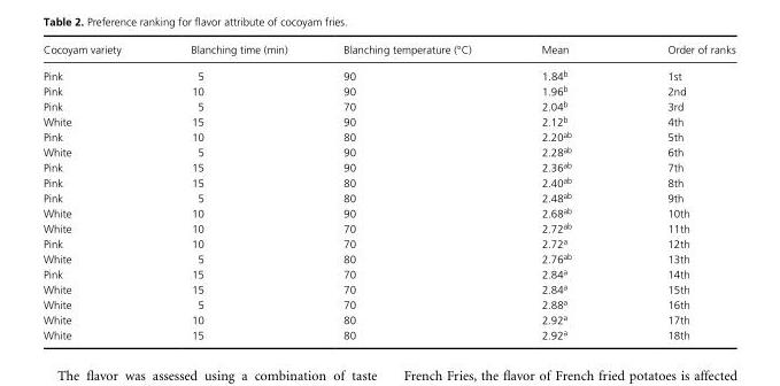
<table><thead><tr><td>Cocoyam variety</td><td>Blanching time (min)</td><td>Blanching temperature (°C)</td><td>Mean</td><td>Order of ranks</td></tr></thead><tbody><tr><td>Pink</td><td>5</td><td>90</td><td>1.84<sup>b</sup></td><td>1st</td></tr><tr><td>Pink</td><td>10</td><td>90</td><td>1.96<sup>b</sup></td><td>2nd</td></tr><tr><td>Pink</td><td>5</td><td>70</td><td>2.04<sup>b</sup></td><td>3rd</td></tr><tr><td>White</td><td>15</td><td>90</td><td>2.12<sup>b</sup></td><td>4th</td></tr><tr><td>Pink</td><td>10</td><td>80</td><td>2.20<sup>ab</sup></td><td>5th</td></tr><tr><td>White</td><td>5</td><td>90</td><td>2.28<sup>ab</sup></td><td>6th</td></tr><tr><td>Pink</td><td>15</td><td>90</td><td>2.36<sup>ab</sup></td><td>7th</td></tr><tr><td>Pink</td><td>15</td><td>80</td><td>2.40<sup>ab</sup></td><td>8th</td></tr><tr><td>Pink</td><td>5</td><td>80</td><td>2.48<sup>ab</sup></td><td>9th</td></tr><tr><td>White</td><td>10</td><td>90</td><td>2.68<sup>ab</sup></td><td>10th</td></tr><tr><td>White</td><td>10</td><td>70</td><td>2.72<sup>ab</sup></td><td>11th</td></tr><tr><td>Pink</td><td>10</td><td>70</td><td>2.72<sup>a</sup></td><td>12th</td></tr><tr><td>White</td><td>5</td><td>80</td><td>2.76<sup>ab</sup></td><td>13th</td></tr><tr><td>Pink</td><td>15</td><td>70</td><td>2.84<sup>a</sup></td><td>14th</td></tr><tr><td>White</td><td>15</td><td>70</td><td>2.84<sup>a</sup></td><td>15th</td></tr><tr><td>White</td><td>5</td><td>70</td><td>2.88<sup>a</sup></td><td>16th</td></tr><tr><td>White</td><td>10</td><td>80</td><td>2.92<sup>a</sup></td><td>17th</td></tr><tr><td>White</td><td>15</td><td>80</td><td>2.92<sup>a</sup></td><td>18th</td></tr></tbody></table>